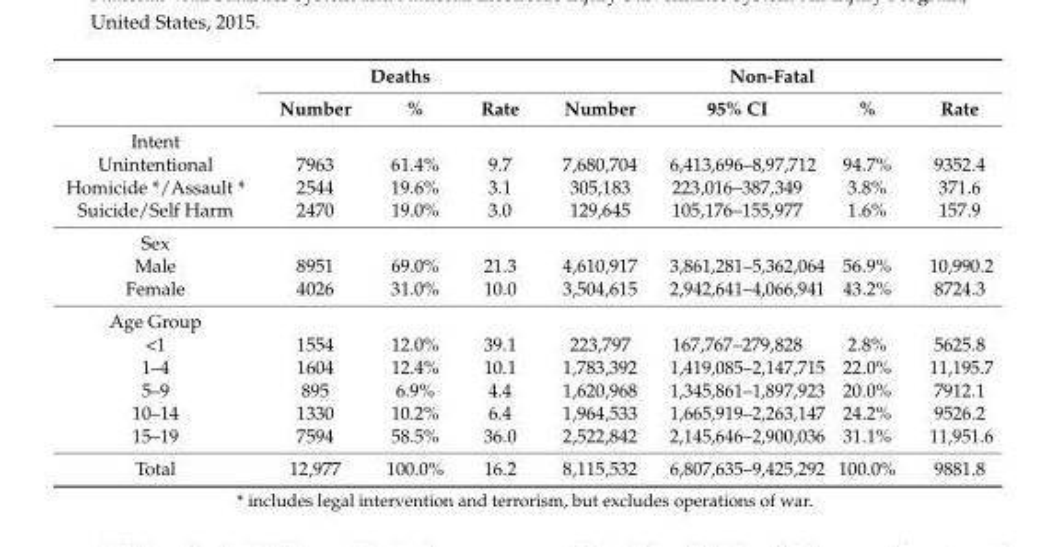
<table><thead><tr><td rowspan="2"></td><td colspan="3">Deaths</td><td colspan="4">Non-Fatal</td></tr><tr><td>Number</td><td>%</td><td>Rate</td><td>Number</td><td>95% CI</td><td>%</td><td>Rate</td></tr></thead><tbody><tr><td colspan="8">Intent</td></tr><tr><td>Unintentional</td><td>7963</td><td>61.4%</td><td>9.7</td><td>7,680,704</td><td>6,413,696–8,97,712</td><td>94.7%</td><td>9352.4</td></tr><tr><td>Homicide */Assault *</td><td>2544</td><td>19.6%</td><td>3.1</td><td>305,183</td><td>223,016–387,349</td><td>3.8%</td><td>371.6</td></tr><tr><td>Suicide/Self Harm</td><td>2470</td><td>19.0%</td><td>3.0</td><td>129,645</td><td>105,176–155,977</td><td>1.6%</td><td>157.9</td></tr><tr><td colspan="8">Sex</td></tr><tr><td>Male</td><td>8951</td><td>69.0%</td><td>21.3</td><td>4,610,917</td><td>3,861,281–5,362,064</td><td>56.9%</td><td>10,990.2</td></tr><tr><td>Female</td><td>4026</td><td>31.0%</td><td>10.0</td><td>3,504,615</td><td>2,942,641–4,066,941</td><td>43.2%</td><td>8724.3</td></tr><tr><td colspan="8">Age Group</td></tr><tr><td>&lt;1</td><td>1554</td><td>12.0%</td><td>39.1</td><td>223,797</td><td>167,767–279,828</td><td>2.8%</td><td>5625.8</td></tr><tr><td>1–4</td><td>1604</td><td>12.4%</td><td>10.1</td><td>1,783,392</td><td>1,419,085–2,147,715</td><td>22.0%</td><td>11,195.7</td></tr><tr><td>5–9</td><td>895</td><td>6.9%</td><td>4.4</td><td>1,620,968</td><td>1,345,861–1,897,923</td><td>20.0%</td><td>7912.1</td></tr><tr><td>10–14</td><td>1330</td><td>10.2%</td><td>6.4</td><td>1,964,533</td><td>1,665,919–2,263,147</td><td>24.2%</td><td>9526.2</td></tr><tr><td>15–19</td><td>7594</td><td>58.5%</td><td>36.0</td><td>2,522,842</td><td>2,145,646–2,900,036</td><td>31.1%</td><td>11,951.6</td></tr><tr><td>Total</td><td>12,977</td><td>100.0%</td><td>16.2</td><td>8,115,532</td><td>6,807,635–9,425,292</td><td>100.0%</td><td>9881.8</td></tr></tbody></table>